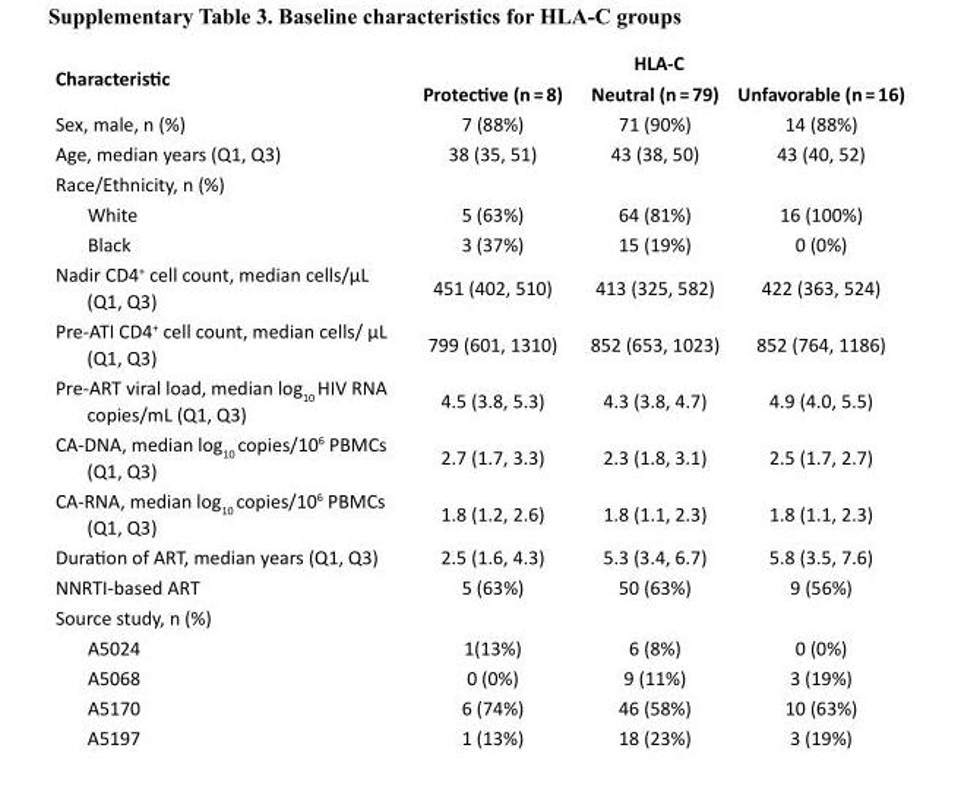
<table><thead><tr><td rowspan="2">Characteristic</td><td colspan="3">HLA-C</td></tr><tr><td>Protective (n = 8)</td><td>Neutral (n = 79)</td><td>Unfavorable (n = 16)</td></tr></thead><tbody><tr><td>Sex, male, n (%)</td><td>7 (88%)</td><td>71 (90%)</td><td>14 (88%)</td></tr><tr><td>Age, median years (Q1, Q3)</td><td>38 (35, 51)</td><td>43 (38, 50)</td><td>43 (40, 52)</td></tr><tr><td colspan="4">Race/Ethnicity, n (%)</td></tr><tr><td>White</td><td>5 (63%)</td><td>64 (81%)</td><td>16 (100%)</td></tr><tr><td>Black</td><td>3 (37%)</td><td>15 (19%)</td><td>0 (0%)</td></tr><tr><td>Nadir CD4+ cell count, median cells/µL (Q1, Q3)</td><td>451 (402, 510)</td><td>413 (325, 582)</td><td>422 (363, 524)</td></tr><tr><td>Pre-ATI CD4+ cell count, median cells/ µL (Q1, Q3)</td><td>799 (601, 1310)</td><td>852 (653, 1023)</td><td>852 (764, 1186)</td></tr><tr><td>Pre-ART viral load, median log10 HIV RNA copies/mL (Q1, Q3)</td><td>4.5 (3.8, 5.3)</td><td>4.3 (3.8, 4.7)</td><td>4.9 (4.0, 5.5)</td></tr><tr><td>CA-DNA, median log10 copies/106 PBMCs (Q1, Q3)</td><td>2.7 (1.7, 3.3)</td><td>2.3 (1.8, 3.1)</td><td>2.5 (1.7, 2.7)</td></tr><tr><td>CA-RNA, median log10 copies/106 PBMCs (Q1, Q3)</td><td>1.8 (1.2, 2.6)</td><td>1.8 (1.1, 2.3)</td><td>1.8 (1.1, 2.3)</td></tr><tr><td>Duration of ART, median years (Q1, Q3)</td><td>2.5 (1.6, 4.3)</td><td>5.3 (3.4, 6.7)</td><td>5.8 (3.5, 7.6)</td></tr><tr><td>NNRTI-based ART</td><td>5 (63%)</td><td>50 (63%)</td><td>9 (56%)</td></tr><tr><td colspan="4">Source study, n (%)</td></tr><tr><td>A5024</td><td>1(13%)</td><td>6 (8%)</td><td>0 (0%)</td></tr><tr><td>A5068</td><td>0 (0%)</td><td>9 (11%)</td><td>3 (19%)</td></tr><tr><td>A5170</td><td>6 (74%)</td><td>46 (58%)</td><td>10 (63%)</td></tr><tr><td>A5197</td><td>1 (13%)</td><td>18 (23%)</td><td>3 (19%)</td></tr></tbody></table>